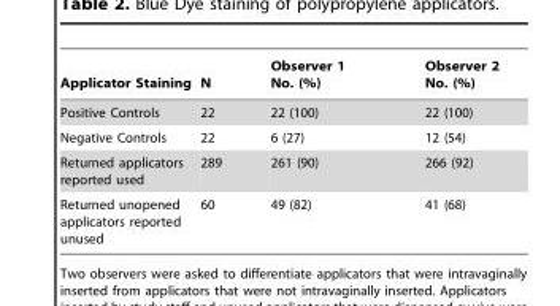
<table><thead><tr><td>Applicator Staining</td><td>N</td><td>Observer 1 No. (%)</td><td>Observer 2 No. (%)</td></tr></thead><tbody><tr><td>Positive Controls</td><td>22</td><td>22 (100)</td><td>22 (100)</td></tr><tr><td>Negative Controls</td><td>22</td><td>6 (27)</td><td>12 (54)</td></tr><tr><td>Returned applicators reported used</td><td>289</td><td>261 (90)</td><td>266 (92)</td></tr><tr><td>Returned unopened applicators reported unused</td><td>60</td><td>49 (82)</td><td>41 (68)</td></tr></tbody></table>